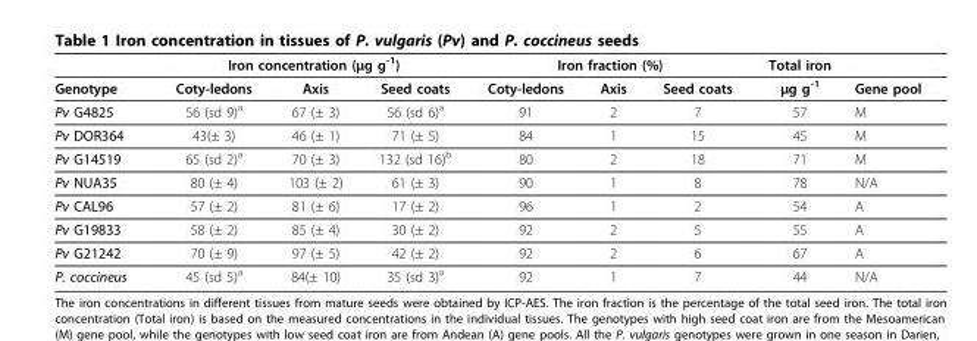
<table><thead><tr><td rowspan="2">Genotype</td><td colspan="3">Iron concentration (μg g<sup>-1</sup>)</td><td colspan="3">Iron fraction (%)</td><td rowspan="2">Total iron μg g<sup>-1</sup></td><td rowspan="2">Gene pool</td></tr><tr><td>Coty-ledons</td><td>Axis</td><td>Seed coats</td><td>Coty-ledons</td><td>Axis</td><td>Seed coats</td></tr></thead><tbody><tr><td>Pv G4825</td><td>56 (sd 9)<sup>a</sup></td><td>67 (± 3)</td><td>56 (sd 6)<sup>a</sup></td><td>91</td><td>2</td><td>7</td><td>57</td><td>M</td></tr><tr><td>Pv DOR364</td><td>43(± 3)</td><td>46 (± 1)</td><td>71 (± 5)</td><td>84</td><td>1</td><td>15</td><td>45</td><td>M</td></tr><tr><td>Pv G14519</td><td>65 (sd 2)<sup>a</sup></td><td>70 (± 3)</td><td>132 (sd 16)<sup>b</sup></td><td>80</td><td>2</td><td>18</td><td>71</td><td>M</td></tr><tr><td>Pv NUA35</td><td>80 (± 4)</td><td>103 (± 2)</td><td>61 (± 3)</td><td>90</td><td>1</td><td>8</td><td>78</td><td>N/A</td></tr><tr><td>Pv CAL96</td><td>57 (± 2)</td><td>81 (± 6)</td><td>17 (± 2)</td><td>96</td><td>1</td><td>2</td><td>54</td><td>A</td></tr><tr><td>Pv G19833</td><td>58 (± 2)</td><td>85 (± 4)</td><td>30 (± 2)</td><td>92</td><td>2</td><td>5</td><td>55</td><td>A</td></tr><tr><td>Pv G21242</td><td>70 (± 9)</td><td>97 (± 5)</td><td>42 (± 2)</td><td>92</td><td>2</td><td>6</td><td>67</td><td>A</td></tr><tr><td>P. coccineus</td><td>45 (sd 5)<sup>a</sup></td><td>84(± 10)</td><td>35 (sd 3)<sup>a</sup></td><td>92</td><td>1</td><td>7</td><td>44</td><td>N/A</td></tr></tbody></table>